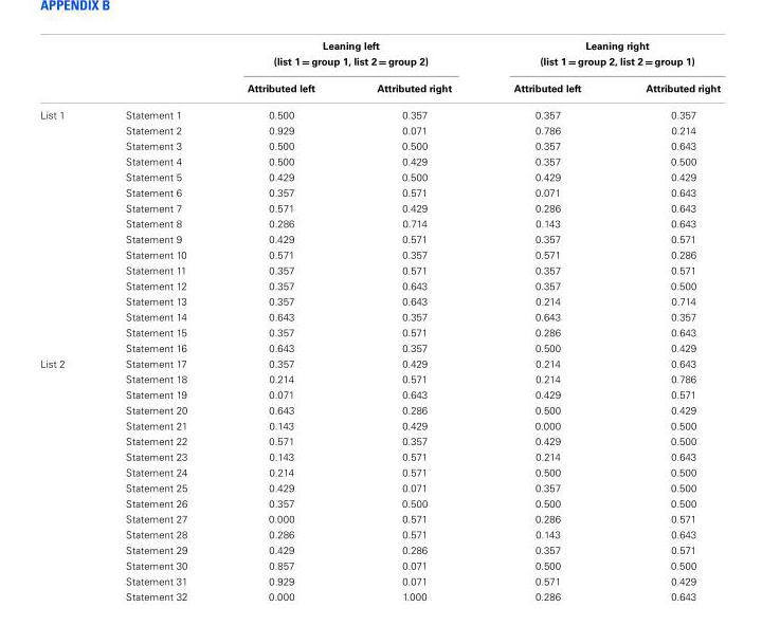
<table><thead><tr><td rowspan="3"></td><td rowspan="3"></td><td rowspan="2" colspan="2">Leaning left (list 1 = group 1, list 2 = group 2)</td><td rowspan="2" colspan="2">Leaning right (list 1 = group 2, list 2 = group 1)</td></tr><tr></tr><tr><td>Attributed left</td><td>Attributed right</td><td>Attributed left</td><td>Attributed right</td></tr></thead><tbody><tr><td rowspan="16">List 1</td><td>Statement 1</td><td>0.500</td><td>0.357</td><td>0.357</td><td>0.357</td></tr><tr><td>Statement 2</td><td>0.929</td><td>0.071</td><td>0.786</td><td>0.214</td></tr><tr><td>Statement 3</td><td>0.500</td><td>0.500</td><td>0.357</td><td>0.643</td></tr><tr><td>Statement 4</td><td>0.500</td><td>0.429</td><td>0.357</td><td>0.500</td></tr><tr><td>Statement 5</td><td>0.429</td><td>0.500</td><td>0.429</td><td>0.429</td></tr><tr><td>Statement 6</td><td>0.357</td><td>0.571</td><td>0.071</td><td>0.643</td></tr><tr><td>Statement 7</td><td>0.571</td><td>0.429</td><td>0.286</td><td>0.643</td></tr><tr><td>Statement 8</td><td>0.286</td><td>0.714</td><td>0.143</td><td>0.643</td></tr><tr><td>Statement 9</td><td>0.429</td><td>0.571</td><td>0.357</td><td>0.571</td></tr><tr><td>Statement 10</td><td>0.571</td><td>0.357</td><td>0.571</td><td>0.286</td></tr><tr><td>Statement 11</td><td>0.357</td><td>0.571</td><td>0.357</td><td>0.571</td></tr><tr><td>Statement 12</td><td>0.357</td><td>0.643</td><td>0.357</td><td>0.500</td></tr><tr><td>Statement 13</td><td>0.357</td><td>0.643</td><td>0.214</td><td>0.714</td></tr><tr><td>Statement 14</td><td>0.643</td><td>0.357</td><td>0.643</td><td>0.357</td></tr><tr><td>Statement 15</td><td>0.357</td><td>0.571</td><td>0.286</td><td>0.643</td></tr><tr><td>Statement 16</td><td>0.643</td><td>0.357</td><td>0.500</td><td>0.429</td></tr><tr><td rowspan="16">List 2</td><td>Statement 17</td><td>0.357</td><td>0.429</td><td>0.214</td><td>0.643</td></tr><tr><td>Statement 18</td><td>0.214</td><td>0.571</td><td>0.214</td><td>0.786</td></tr><tr><td>Statement 19</td><td>0.071</td><td>0.643</td><td>0.429</td><td>0.571</td></tr><tr><td>Statement 20</td><td>0.643</td><td>0.286</td><td>0.500</td><td>0.429</td></tr><tr><td>Statement 21</td><td>0.143</td><td>0.429</td><td>0.000</td><td>0.500</td></tr><tr><td>Statement 22</td><td>0.571</td><td>0.357</td><td>0.429</td><td>0.500</td></tr><tr><td>Statement 23</td><td>0.143</td><td>0.571</td><td>0.214</td><td>0.643</td></tr><tr><td>Statement 24</td><td>0.214</td><td>0.571</td><td>0.500</td><td>0.500</td></tr><tr><td>Statement 25</td><td>0.429</td><td>0.071</td><td>0.357</td><td>0.500</td></tr><tr><td>Statement 26</td><td>0.357</td><td>0.500</td><td>0.500</td><td>0.500</td></tr><tr><td>Statement 27</td><td>0.000</td><td>0.571</td><td>0.286</td><td>0.571</td></tr><tr><td>Statement 28</td><td>0.286</td><td>0.571</td><td>0.143</td><td>0.643</td></tr><tr><td>Statement 29</td><td>0.429</td><td>0.286</td><td>0.357</td><td>0.571</td></tr><tr><td>Statement 30</td><td>0.857</td><td>0.071</td><td>0.500</td><td>0.500</td></tr><tr><td>Statement 31</td><td>0.929</td><td>0.071</td><td>0.571</td><td>0.429</td></tr><tr><td>Statement 32</td><td>0.000</td><td>1.000</td><td>0.286</td><td>0.643</td></tr></tbody></table>